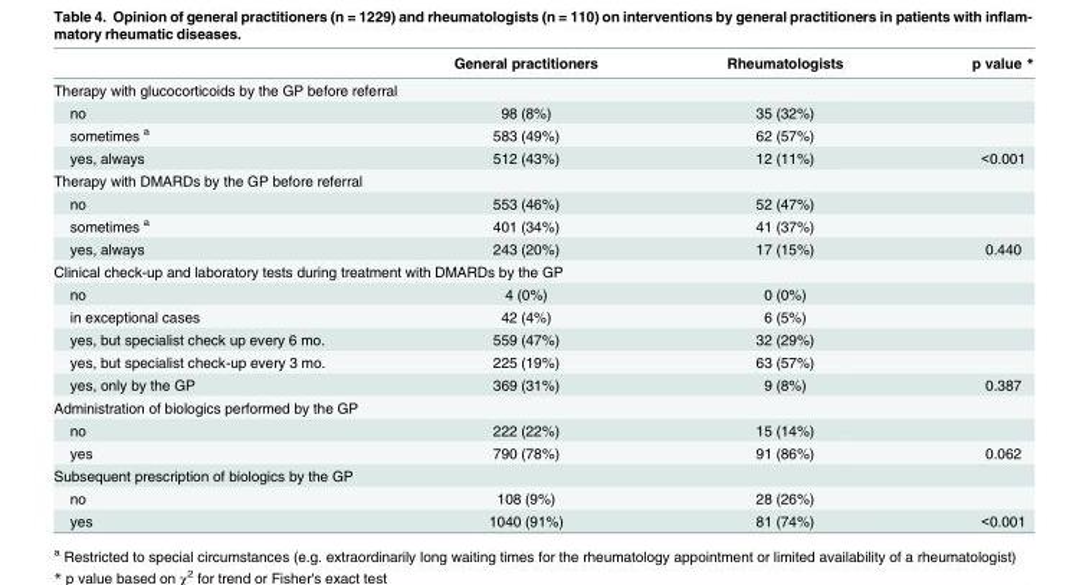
<table><thead><tr><td></td><td>General practitioners</td><td>Rheumatologists</td><td>p value *</td></tr></thead><tbody><tr><td colspan="4">Therapy with glucocorticoids by the GP before referral</td></tr><tr><td>no</td><td>98 (8%)</td><td>35 (32%)</td><td></td></tr><tr><td>sometimes <sup>a</sup></td><td>583 (49%)</td><td>62 (57%)</td><td></td></tr><tr><td>yes, always</td><td>512 (43%)</td><td>12 (11%)</td><td>&lt;0.001</td></tr><tr><td colspan="4">Therapy with DMARDs by the GP before referral</td></tr><tr><td>no</td><td>553 (46%)</td><td>52 (47%)</td><td></td></tr><tr><td>sometimes <sup>a</sup></td><td>401 (34%)</td><td>41 (37%)</td><td></td></tr><tr><td>yes, always</td><td>243 (20%)</td><td>17 (15%)</td><td>0.440</td></tr><tr><td colspan="4">Clinical check-up and laboratory tests during treatment with DMARDs by the GP</td></tr><tr><td>no</td><td>4 (0%)</td><td>0 (0%)</td><td></td></tr><tr><td>in exceptional cases</td><td>42 (4%)</td><td>6 (5%)</td><td></td></tr><tr><td>yes, but specialist check up every 6 mo.</td><td>559 (47%)</td><td>32 (29%)</td><td></td></tr><tr><td>yes, but specialist check-up every 3 mo.</td><td>225 (19%)</td><td>63 (57%)</td><td></td></tr><tr><td>yes, only by the GP</td><td>369 (31%)</td><td>9 (8%)</td><td>0.387</td></tr><tr><td colspan="4">Administration of biologics performed by the GP</td></tr><tr><td>no</td><td>222 (22%)</td><td>15 (14%)</td><td></td></tr><tr><td>yes</td><td>790 (78%)</td><td>91 (86%)</td><td>0.062</td></tr><tr><td colspan="4">Subsequent prescription of biologics by the GP</td></tr><tr><td>no</td><td>108 (9%)</td><td>28 (26%)</td><td></td></tr><tr><td>yes</td><td>1040 (91%)</td><td>81 (74%)</td><td>&lt;0.001</td></tr></tbody></table>